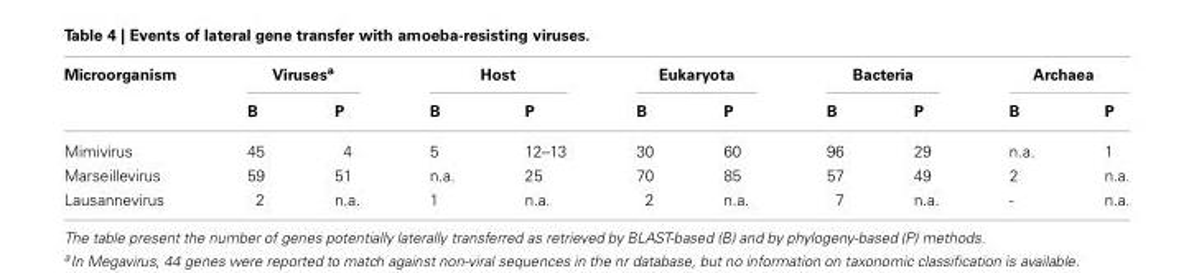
<table><thead><tr><td rowspan="2">Microorganism</td><td colspan="2">Viruses<sup>a</sup></td><td colspan="2">Host</td><td colspan="2">Eukaryota</td><td colspan="2">Bacteria</td><td colspan="2">Archaea</td></tr><tr><td>B</td><td>P</td><td>B</td><td>P</td><td>B</td><td>P</td><td>B</td><td>P</td><td>B</td><td>P</td></tr></thead><tbody><tr><td>Mimivirus</td><td>45</td><td>4</td><td>5</td><td>12–13</td><td>30</td><td>60</td><td>96</td><td>29</td><td>n.a.</td><td>1</td></tr><tr><td>Marseillevirus</td><td>59</td><td>51</td><td>n.a.</td><td>25</td><td>70</td><td>85</td><td>57</td><td>49</td><td>2</td><td>n.a.</td></tr><tr><td>Lausannevirus</td><td>2</td><td>n.a.</td><td>1</td><td>n.a.</td><td>2</td><td>n.a.</td><td>7</td><td>n.a.</td><td>-</td><td>n.a.</td></tr></tbody></table>